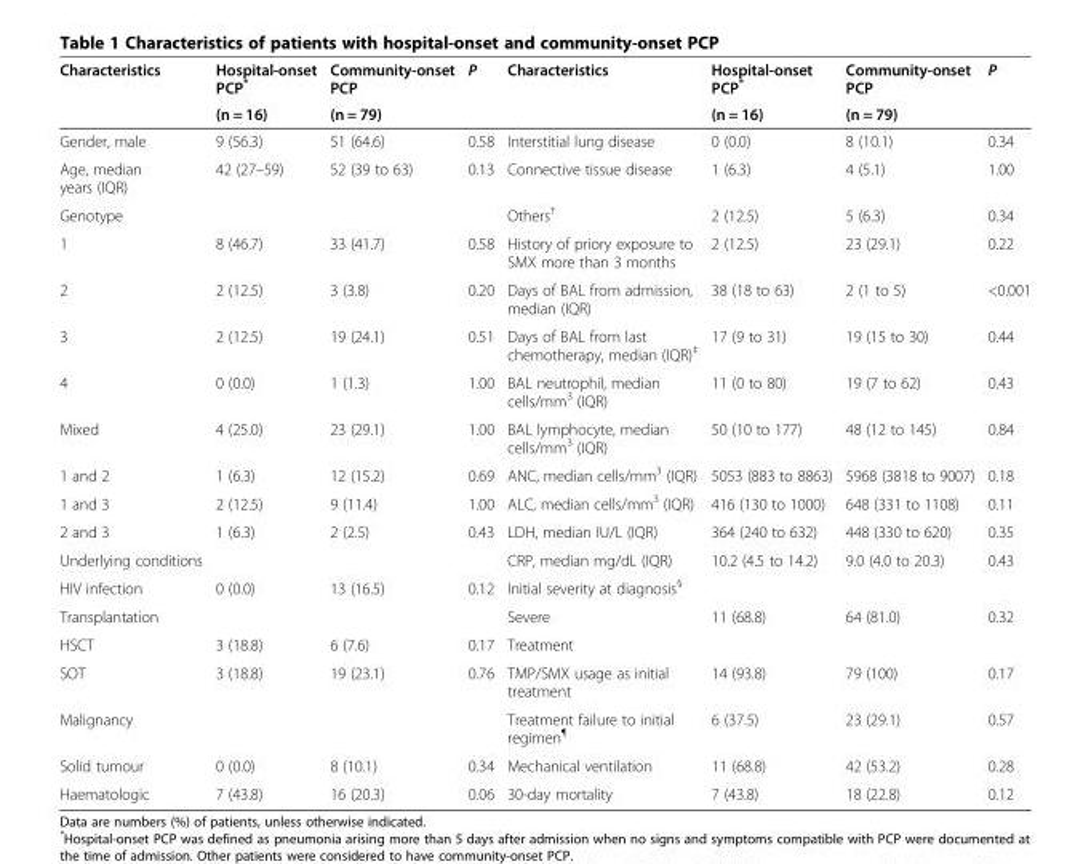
<table><thead><tr><td rowspan="2">Characteristics</td><td rowspan="2">Hospital-onset PCP* (n = 16)</td><td rowspan="2">Community-onset PCP (n = 79)</td><td rowspan="2">P</td><td rowspan="2">Characteristics</td><td rowspan="2">Hospital-onset PCP* (n = 16)</td><td rowspan="2">Community-onset PCP (n = 79)</td><td rowspan="2">P</td></tr><tr></tr></thead><tbody><tr><td>Gender, male</td><td>9 (56.3)</td><td>51 (64.6)</td><td>0.58</td><td>Interstitial lung disease</td><td>0 (0.0)</td><td>8 (10.1)</td><td>0.34</td></tr><tr><td>Age, median years (IQR)</td><td>42 (27–59)</td><td>52 (39 to 63)</td><td>0.13</td><td>Connective tissue disease</td><td>1 (6.3)</td><td>4 (5.1)</td><td>1.00</td></tr><tr><td>Genotype</td><td></td><td></td><td></td><td>Others<sup>†</sup></td><td>2 (12.5)</td><td>5 (6.3)</td><td>0.34</td></tr><tr><td>1</td><td>8 (46.7)</td><td>33 (41.7)</td><td>0.58</td><td>History of priory exposure to SMX more than 3 months</td><td>2 (12.5)</td><td>23 (29.1)</td><td>0.22</td></tr><tr><td>2</td><td>2 (12.5)</td><td>3 (3.8)</td><td>0.20</td><td>Days of BAL from admission, median (IQR)</td><td>38 (18 to 63)</td><td>2 (1 to 5)</td><td>&lt;0.001</td></tr><tr><td>3</td><td>2 (12.5)</td><td>19 (24.1)</td><td>0.51</td><td>Days of BAL from last chemotherapy, median (IQR)<sup>‡</sup></td><td>17 (9 to 31)</td><td>19 (15 to 30)</td><td>0.44</td></tr><tr><td>4</td><td>0 (0.0)</td><td>1 (1.3)</td><td>1.00</td><td>BAL neutrophil, median cells/mm<sup>3</sup> (IQR)</td><td>11 (0 to 80)</td><td>19 (7 to 62)</td><td>0.43</td></tr><tr><td>Mixed</td><td>4 (25.0)</td><td>23 (29.1)</td><td>1.00</td><td>BAL lymphocyte, median cells/mm<sup>3</sup> (IQR)</td><td>50 (10 to 177)</td><td>48 (12 to 145)</td><td>0.84</td></tr><tr><td>1 and 2</td><td>1 (6.3)</td><td>12 (15.2)</td><td>0.69</td><td>ANC, median cells/mm<sup>3</sup> (IQR)</td><td>5053 (883 to 8863)</td><td>5968 (3818 to 9007)</td><td>0.18</td></tr><tr><td>1 and 3</td><td>2 (12.5)</td><td>9 (11.4)</td><td>1.00</td><td>ALC, median cells/mm<sup>3</sup> (IQR)</td><td>416 (130 to 1000)</td><td>648 (331 to 1108)</td><td>0.11</td></tr><tr><td>2 and 3</td><td>1 (6.3)</td><td>2 (2.5)</td><td>0.43</td><td>LDH, median IU/L (IQR)</td><td>364 (240 to 632)</td><td>448 (330 to 620)</td><td>0.35</td></tr><tr><td>Underlying conditions</td><td></td><td></td><td></td><td>CRP, median mg/dL (IQR)</td><td>10.2 (4.5 to 14.2)</td><td>9.0 (4.0 to 20.3)</td><td>0.43</td></tr><tr><td>HIV infection</td><td>0 (0.0)</td><td>13 (16.5)</td><td>0.12</td><td>Initial severity at diagnosis<sup>§</sup></td><td></td><td></td><td></td></tr><tr><td>Transplantation</td><td></td><td></td><td></td><td>Severe</td><td>11 (68.8)</td><td>64 (81.0)</td><td>0.32</td></tr><tr><td>HSCT</td><td>3 (18.8)</td><td>6 (7.6)</td><td>0.17</td><td>Treatment</td><td></td><td></td><td></td></tr><tr><td>SOT</td><td>3 (18.8)</td><td>19 (23.1)</td><td>0.76</td><td>TMP/SMX usage as initial treatment</td><td>14 (93.8)</td><td>79 (100)</td><td>0.17</td></tr><tr><td>Malignancy</td><td></td><td></td><td></td><td>Treatment failure to initial regimen<sup>¶</sup></td><td>6 (37.5)</td><td>23 (29.1)</td><td>0.57</td></tr><tr><td>Solid tumour</td><td>0 (0.0)</td><td>8 (10.1)</td><td>0.34</td><td>Mechanical ventilation</td><td>11 (68.8)</td><td>42 (53.2)</td><td>0.28</td></tr><tr><td>Haematologic</td><td>7 (43.8)</td><td>16 (20.3)</td><td>0.06</td><td>30-day mortality</td><td>7 (43.8)</td><td>18 (22.8)</td><td>0.12</td></tr></tbody></table>